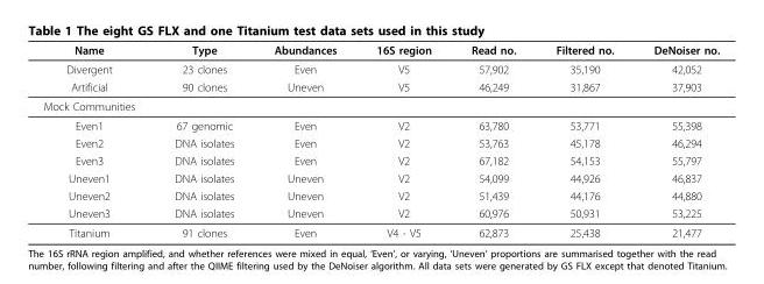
<table><thead><tr><td>Name</td><td>Type</td><td>Abundances</td><td>16S region</td><td>Read no.</td><td>Filtered no.</td><td>DeNoiser no.</td></tr></thead><tbody><tr><td>Divergent</td><td>23 clones</td><td>Even</td><td>V5</td><td>57,902</td><td>35,190</td><td>42,052</td></tr><tr><td>Artificial</td><td>90 clones</td><td>Uneven</td><td>V5</td><td>46,249</td><td>31,867</td><td>37,903</td></tr><tr><td colspan="7">Mock Communities</td></tr><tr><td>Even1</td><td>67 genomic</td><td>Even</td><td>V2</td><td>63,780</td><td>53,771</td><td>55,398</td></tr><tr><td>Even2</td><td>DNA isolates</td><td>Even</td><td>V2</td><td>53,763</td><td>45,178</td><td>46,294</td></tr><tr><td>Even3</td><td>DNA isolates</td><td>Even</td><td>V2</td><td>67,182</td><td>54,153</td><td>55,797</td></tr><tr><td>Uneven1</td><td>DNA isolates</td><td>Uneven</td><td>V2</td><td>54,099</td><td>44,926</td><td>46,837</td></tr><tr><td>Uneven2</td><td>DNA isolates</td><td>Uneven</td><td>V2</td><td>51,439</td><td>44,176</td><td>44,880</td></tr><tr><td>Uneven3</td><td>DNA isolates</td><td>Uneven</td><td>V2</td><td>60,976</td><td>50,931</td><td>53,225</td></tr><tr><td>Titanium</td><td>91 clones</td><td>Even</td><td>V4 - V5</td><td>62,873</td><td>25,438</td><td>21,477</td></tr></tbody></table>